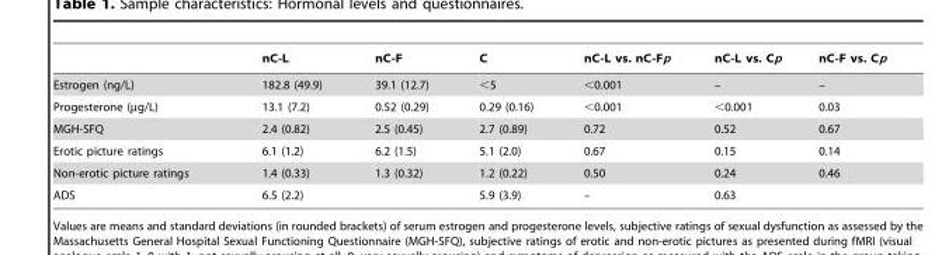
<table><thead><tr><td></td><td>nC-L</td><td>nC-F</td><td>C</td><td>nC-L vs. nC-Fp</td><td>nC-L vs. Cp</td><td>nC-F vs. Cp</td></tr></thead><tbody><tr><td>Estrogen (ng/L)</td><td>182.8 (49.9)</td><td>39.1 (12.7)</td><td>&lt;5</td><td>&lt;0.001</td><td>–</td><td>–</td></tr><tr><td>Progesterone (µg/L)</td><td>13.1 (7.2)</td><td>0.52 (0.29)</td><td>0.29 (0.16)</td><td>&lt;0.001</td><td>&lt;0.001</td><td>0.03</td></tr><tr><td>MGH-SFQ</td><td>2.4 (0.82)</td><td>2.5 (0.45)</td><td>2.7 (0.89)</td><td>0.72</td><td>0.52</td><td>0.67</td></tr><tr><td>Erotic picture ratings</td><td>6.1 (1.2)</td><td>6.2 (1.5)</td><td>5.1 (2.0)</td><td>0.67</td><td>0.15</td><td>0.14</td></tr><tr><td>Non-erotic picture ratings</td><td>1.4 (0.33)</td><td>1.3 (0.32)</td><td>1.2 (0.22)</td><td>0.50</td><td>0.24</td><td>0.46</td></tr><tr><td>ADS</td><td colspan="2">6.5 (2.2)</td><td>5.9 (3.9)</td><td>–</td><td colspan="2">0.63</td></tr></tbody></table>